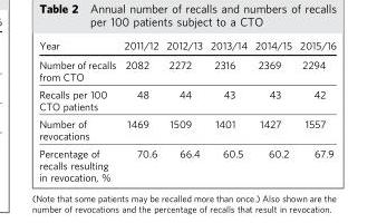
<table><thead><tr><td>Year</td><td>2011/12</td><td>2012/13</td><td>2013/14</td><td>2014/15</td><td>2015/16</td></tr></thead><tbody><tr><td>Number of recalls from CTO</td><td>2082</td><td>2272</td><td>2316</td><td>2369</td><td>2294</td></tr><tr><td>Recalls per 100 CTO patients</td><td>48</td><td>44</td><td>43</td><td>43</td><td>42</td></tr><tr><td>Number of revocations</td><td>1469</td><td>1509</td><td>1401</td><td>1427</td><td>1557</td></tr><tr><td>Percentage of recalls resulting in revocation, %</td><td>70.6</td><td>66.4</td><td>60.5</td><td>60.2</td><td>67.9</td></tr></tbody></table>